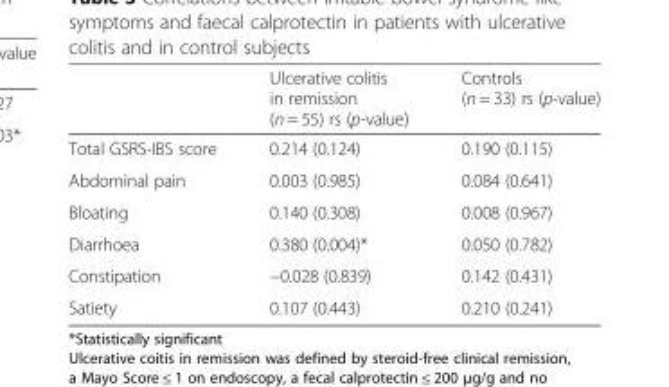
<table><thead><tr><td></td><td>Ulcerative colitis in remission (n = 55) rs (p-value)</td><td>Controls (n = 33) rs (p-value)</td></tr></thead><tbody><tr><td>Total GSRS-IBS score</td><td>0.214 (0.124)</td><td>0.190 (0.115)</td></tr><tr><td>Abdominal pain</td><td>0.003 (0.985)</td><td>0.084 (0.641)</td></tr><tr><td>Bloating</td><td>0.140 (0.308)</td><td>0.008 (0.967)</td></tr><tr><td>Diarrhoea</td><td>0.380 (0.004)*</td><td>0.050 (0.782)</td></tr><tr><td>Constipation</td><td>−0.028 (0.839)</td><td>0.142 (0.431)</td></tr><tr><td>Satiety</td><td>0.107 (0.443)</td><td>0.210 (0.241)</td></tr></tbody></table>